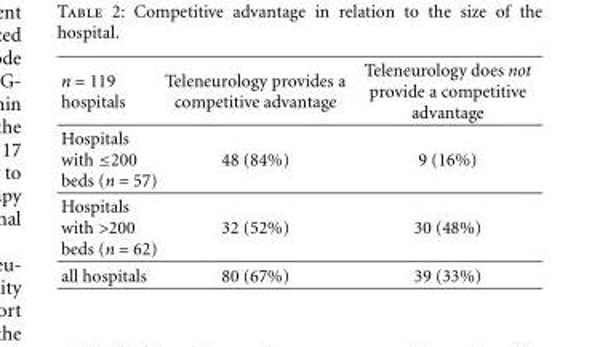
<table><thead><tr><td>n = 119 hospitals</td><td>Teleneurology provides a competitive advantage</td><td>Teleneurology does not provide a competitive advantage</td></tr></thead><tbody><tr><td>Hospitals with ≤200 beds (n = 57)</td><td>48 (84%)</td><td>9 (16%)</td></tr><tr><td>Hospitals with &gt;200 beds (n = 62)</td><td>32 (52%)</td><td>30 (48%)</td></tr><tr><td>all hospitals</td><td>80 (67%)</td><td>39 (33%)</td></tr></tbody></table>